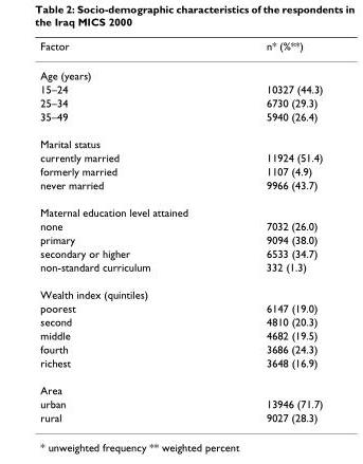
<table><thead><tr><td>Factor</td><td>n* (%**)</td></tr></thead><tbody><tr><td colspan="2">Age (years)</td></tr><tr><td>15–24</td><td>10327 (44.3)</td></tr><tr><td>25–34</td><td>6730 (29.3)</td></tr><tr><td>35–49</td><td>5940 (26.4)</td></tr><tr><td colspan="2">Marital status</td></tr><tr><td>currently married</td><td>11924 (51.4)</td></tr><tr><td>formerly married</td><td>1107 (4.9)</td></tr><tr><td>never married</td><td>9966 (43.7)</td></tr><tr><td colspan="2">Maternal education level attained</td></tr><tr><td>none</td><td>7032 (26.0)</td></tr><tr><td>primary</td><td>9094 (38.0)</td></tr><tr><td>secondary or higher</td><td>6533 (34.7)</td></tr><tr><td>non-standard curriculum</td><td>332 (1.3)</td></tr><tr><td colspan="2">Wealth index (quintiles)</td></tr><tr><td>poorest</td><td>6147 (19.0)</td></tr><tr><td>second</td><td>4810 (20.3)</td></tr><tr><td>middle</td><td>4682 (19.5)</td></tr><tr><td>fourth</td><td>3686 (24.3)</td></tr><tr><td>richest</td><td>3648 (16.9)</td></tr><tr><td colspan="2">Area</td></tr><tr><td>urban</td><td>13946 (71.7)</td></tr><tr><td>rural</td><td>9027 (28.3)</td></tr></tbody></table>